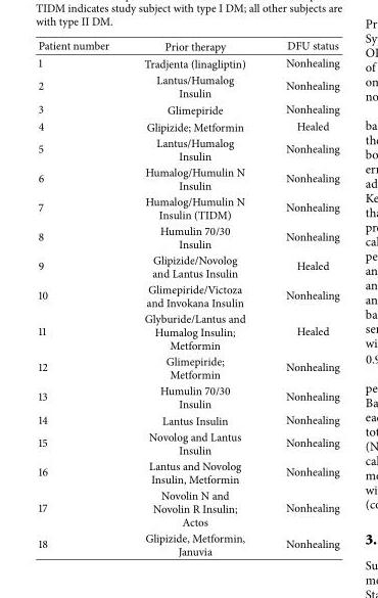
<table><thead><tr><td>Patient number</td><td>Prior therapy</td><td>DFU status</td></tr></thead><tbody><tr><td>1</td><td>Tradjenta (linagliptin)</td><td>Nonhealing</td></tr><tr><td>2</td><td>Lantus/Humalog Insulin</td><td>Nonhealing</td></tr><tr><td>3</td><td>Glimepiride</td><td>Nonhealing</td></tr><tr><td>4</td><td>Glipizide; Metformin</td><td>Healed</td></tr><tr><td>5</td><td>Lantus/Humalog Insulin</td><td>Nonhealing</td></tr><tr><td>6</td><td>Humalog/Humulin N Insulin</td><td>Nonhealing</td></tr><tr><td>7</td><td>Humalog/Humulin N Insulin (TIDM)</td><td>Nonhealing</td></tr><tr><td>8</td><td>Humulin 70/30 Insulin</td><td>Nonhealing</td></tr><tr><td>9</td><td>Glipizide/Novolog and Lantus Insulin</td><td>Healed</td></tr><tr><td>10</td><td>Glimepiride/Victoza and Invokana Insulin</td><td>Nonhealing</td></tr><tr><td>11</td><td>Glyburide/Lantus and Humalog Insulin; Metformin</td><td>Healed</td></tr><tr><td>12</td><td>Glimepiride; Metformin</td><td>Nonhealing</td></tr><tr><td>13</td><td>Humulin 70/30 Insulin</td><td>Nonhealing</td></tr><tr><td>14</td><td>Lantus Insulin</td><td>Nonhealing</td></tr><tr><td>15</td><td>Novolog and Lantus Insulin</td><td>Nonhealing</td></tr><tr><td>16</td><td>Lantus and Novolog Insulin, Metformin</td><td>Nonhealing</td></tr><tr><td>17</td><td>Novolin N and Novolin R Insulin; Actos</td><td>Nonhealing</td></tr><tr><td>18</td><td>Glipizide, Metformin, Januvia</td><td>Nonhealing</td></tr></tbody></table>